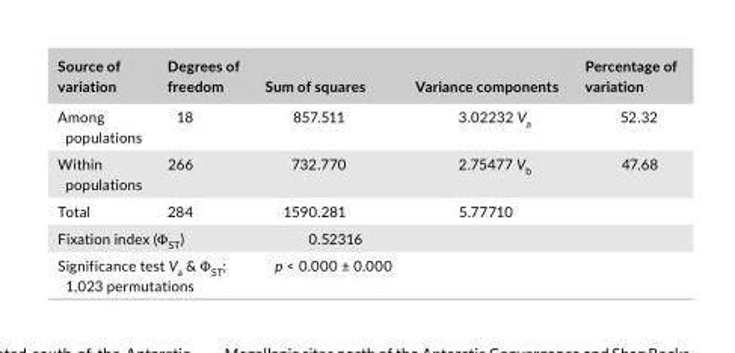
<table><thead><tr><td>Source of variation</td><td>Degrees of freedom</td><td>Sum of squares</td><td>Variance components</td><td>Percentage of variation</td></tr></thead><tbody><tr><td>Among populations</td><td>18</td><td>857.511</td><td>3.02232 V<sub>a</sub></td><td>52.32</td></tr><tr><td>Within populations</td><td>266</td><td>732.770</td><td>2.75477 V<sub>b</sub></td><td>47.68</td></tr><tr><td>Total</td><td>284</td><td>1590.281</td><td>5.77710</td><td></td></tr><tr><td colspan="2">Fixation index (Φ<sub>ST</sub>)</td><td>0.52316</td><td></td><td></td></tr><tr><td colspan="2">Significance test V<sub>a</sub> &amp; Φ<sub>ST</sub>; 1,023 permutations</td><td>p &lt; 0.000 ± 0.000</td><td></td><td></td></tr></tbody></table>